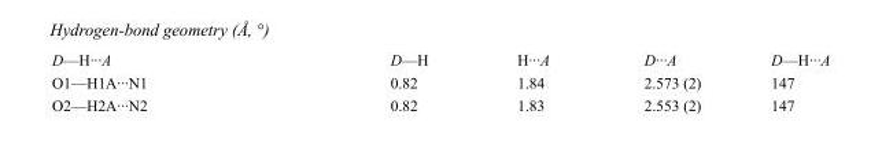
<table><tbody><tr><td>D—H···A</td><td>D—H</td><td>H···A</td><td>D···A</td><td>D—H···A</td></tr><tr><td>O1—H1A···N1</td><td>0.82</td><td>1.84</td><td>2.573 (2)</td><td>147</td></tr><tr><td>O2—H2A···N2</td><td>0.82</td><td>1.83</td><td>2.553 (2)</td><td>147</td></tr></tbody></table>